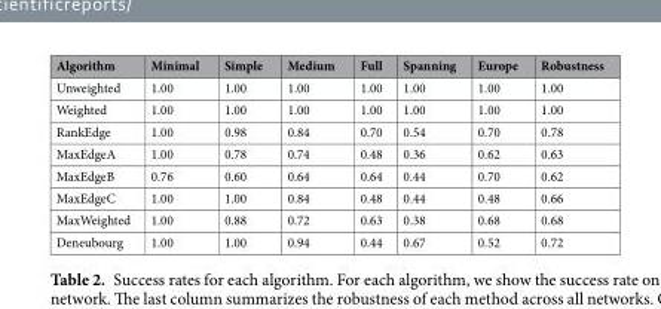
<table><thead><tr><td>Algorithm</td><td>Minimal</td><td>Simple</td><td>Medium</td><td>Full</td><td>Spanning</td><td>Europe</td><td>Robustness</td></tr></thead><tbody><tr><td>Unweighted</td><td>1.00</td><td>1.00</td><td>1.00</td><td>1.00</td><td>1.00</td><td>1.00</td><td>1.00</td></tr><tr><td>Weighted</td><td>1.00</td><td>1.00</td><td>1.00</td><td>1.00</td><td>1.00</td><td>1.00</td><td>1.00</td></tr><tr><td>RankEdge</td><td>1.00</td><td>0.98</td><td>0.84</td><td>0.70</td><td>0.54</td><td>0.70</td><td>0.78</td></tr><tr><td>MaxEdgeA</td><td>1.00</td><td>0.78</td><td>0.74</td><td>0.48</td><td>0.36</td><td>0.62</td><td>0.63</td></tr><tr><td>MaxEdgeB</td><td>0.76</td><td>0.60</td><td>0.64</td><td>0.64</td><td>0.44</td><td>0.70</td><td>0.62</td></tr><tr><td>MaxEdgeC</td><td>1.00</td><td>1.00</td><td>0.84</td><td>0.48</td><td>0.44</td><td>0.48</td><td>0.66</td></tr><tr><td>MaxWeighted</td><td>1.00</td><td>0.88</td><td>0.72</td><td>0.63</td><td>0.38</td><td>0.68</td><td>0.68</td></tr><tr><td>Deneubourg</td><td>1.00</td><td>1.00</td><td>0.94</td><td>0.44</td><td>0.67</td><td>0.52</td><td>0.72</td></tr></tbody></table>